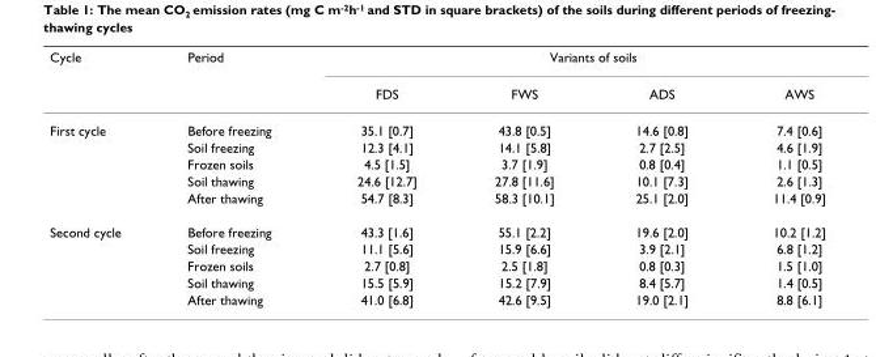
<table><thead><tr><td rowspan="2">Cycle</td><td rowspan="2">Period</td><td colspan="4">Variants of soils</td></tr><tr><td>FDS</td><td>FWS</td><td>ADS</td><td>AWS</td></tr></thead><tbody><tr><td rowspan="5">First cycle</td><td>Before freezing</td><td>35.1 [0.7]</td><td>43.8 [0.5]</td><td>14.6 [0.8]</td><td>7.4 [0.6]</td></tr><tr><td>Soil freezing</td><td>12.3 [4.1]</td><td>14.1 [5.8]</td><td>2.7 [2.5]</td><td>4.6 [1.9]</td></tr><tr><td>Frozen soils</td><td>4.5 [1.5]</td><td>3.7 [1.9]</td><td>0.8 [0.4]</td><td>1.1 [0.5]</td></tr><tr><td>Soil thawing</td><td>24.6 [12.7]</td><td>27.8 [11.6]</td><td>10.1 [7.3]</td><td>2.6 [1.3]</td></tr><tr><td>After thawing</td><td>54.7 [8.3]</td><td>58.3 [10.1]</td><td>25.1 [2.0]</td><td>11.4 [0.9]</td></tr><tr><td rowspan="5">Second cycle</td><td>Before freezing</td><td>43.3 [1.6]</td><td>55.1 [2.2]</td><td>19.6 [2.0]</td><td>10.2 [1.2]</td></tr><tr><td>Soil freezing</td><td>11.1 [5.6]</td><td>15.9 [6.6]</td><td>3.9 [2.1]</td><td>6.8 [1.2]</td></tr><tr><td>Frozen soils</td><td>2.7 [0.8]</td><td>2.5 [1.8]</td><td>0.8 [0.3]</td><td>1.5 [1.0]</td></tr><tr><td>Soil thawing</td><td>15.5 [5.9]</td><td>15.2 [7.9]</td><td>8.4 [5.7]</td><td>1.4 [0.5]</td></tr><tr><td>After thawing</td><td>41.0 [6.8]</td><td>42.6 [9.5]</td><td>19.0 [2.1]</td><td>8.8 [6.1]</td></tr></tbody></table>